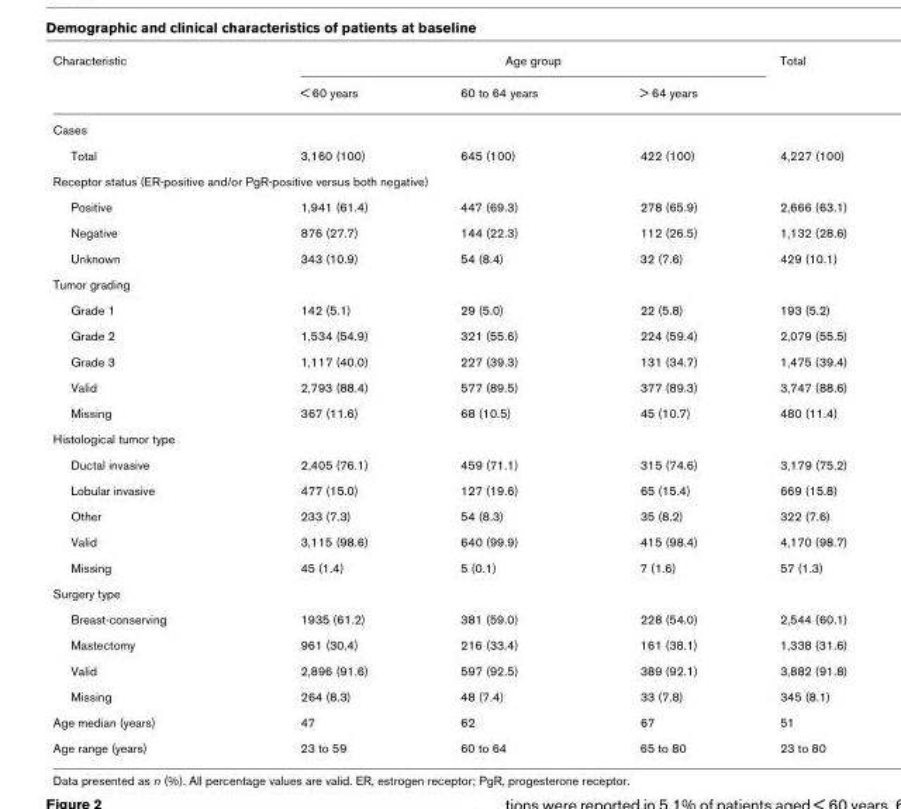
<table><thead><tr><td rowspan="2">Characteristic</td><td colspan="3">Age group</td><td rowspan="2">Total</td></tr><tr><td>&lt; 60 years</td><td>60 to 64 years</td><td>&gt; 64 years</td></tr></thead><tbody><tr><td colspan="5">Cases</td></tr><tr><td>Total</td><td>3,160 (100)</td><td>645 (100)</td><td>422 (100)</td><td>4,227 (100)</td></tr><tr><td colspan="5">Receptor status (ER-positive and/or PgR-positive versus both negative)</td></tr><tr><td>Positive</td><td>1,941 (61.4)</td><td>447 (69.3)</td><td>278 (65.9)</td><td>2,666 (63.1)</td></tr><tr><td>Negative</td><td>876 (27.7)</td><td>144 (22.3)</td><td>112 (26.5)</td><td>1,132 (28.6)</td></tr><tr><td>Unknown</td><td>343 (10.9)</td><td>54 (8.4)</td><td>32 (7.6)</td><td>429 (10.1)</td></tr><tr><td colspan="5">Tumor grading</td></tr><tr><td>Grade 1</td><td>142 (5.1)</td><td>29 (5.0)</td><td>22 (5.8)</td><td>193 (5.2)</td></tr><tr><td>Grade 2</td><td>1,534 (54.9)</td><td>321 (55.6)</td><td>224 (59.4)</td><td>2,079 (55.5)</td></tr><tr><td>Grade 3</td><td>1,117 (40.0)</td><td>227 (39.3)</td><td>131 (34.7)</td><td>1,475 (39.4)</td></tr><tr><td>Valid</td><td>2,793 (88.4)</td><td>577 (89.5)</td><td>377 (89.3)</td><td>3,747 (88.6)</td></tr><tr><td>Missing</td><td>367 (11.6)</td><td>68 (10.5)</td><td>45 (10.7)</td><td>480 (11.4)</td></tr><tr><td colspan="5">Histological tumor type</td></tr><tr><td>Ductal invasive</td><td>2,405 (76.1)</td><td>459 (71.1)</td><td>315 (74.6)</td><td>3,179 (75.2)</td></tr><tr><td>Lobular invasive</td><td>477 (15.0)</td><td>127 (19.6)</td><td>65 (15.4)</td><td>669 (15.8)</td></tr><tr><td>Other</td><td>233 (7.3)</td><td>54 (8.3)</td><td>35 (8.2)</td><td>322 (7.6)</td></tr><tr><td>Valid</td><td>3,115 (98.6)</td><td>640 (99.9)</td><td>415 (98.4)</td><td>4,170 (98.7)</td></tr><tr><td>Missing</td><td>45 (1.4)</td><td>5 (0.1)</td><td>7 (1.6)</td><td>57 (1.3)</td></tr><tr><td colspan="5">Surgery type</td></tr><tr><td>Breast-conserving</td><td>1935 (61.2)</td><td>381 (59.0)</td><td>228 (54.0)</td><td>2,544 (60.1)</td></tr><tr><td>Mastectomy</td><td>961 (30.4)</td><td>216 (33.4)</td><td>161 (38.1)</td><td>1,338 (31.6)</td></tr><tr><td>Valid</td><td>2,896 (91.6)</td><td>597 (92.5)</td><td>389 (92.1)</td><td>3,882 (91.8)</td></tr><tr><td>Missing</td><td>264 (8.3)</td><td>48 (7.4)</td><td>33 (7.8)</td><td>345 (8.1)</td></tr><tr><td>Age median (years)</td><td>47</td><td>62</td><td>67</td><td>51</td></tr><tr><td>Age range (years)</td><td>23 to 59</td><td>60 to 64</td><td>65 to 80</td><td>23 to 80</td></tr></tbody></table>